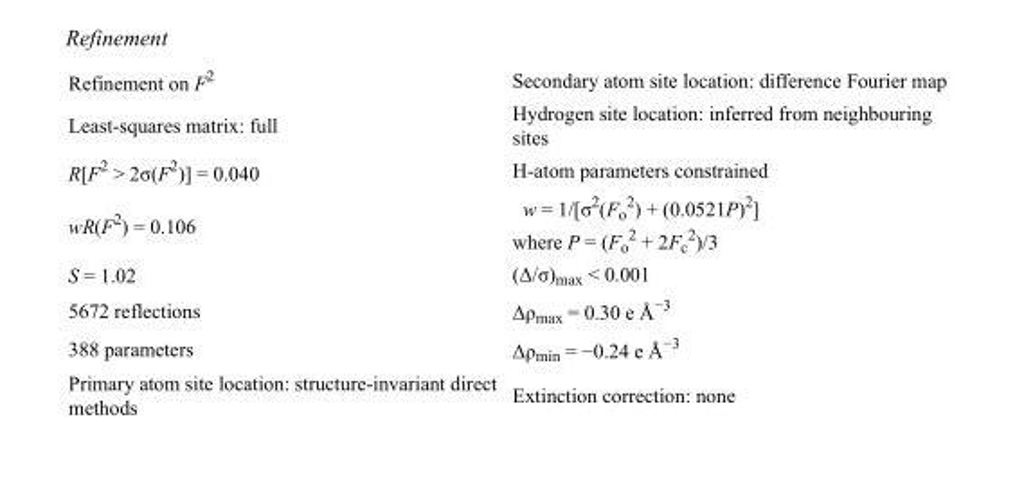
<table><tbody><tr><td>Refinement on F<sup>2</sup></td><td>Secondary atom site location: difference Fourier map</td></tr><tr><td>Least-squares matrix: full</td><td>Hydrogen site location: inferred from neighbouring sites</td></tr><tr><td>R[F<sup>2</sup> &gt; 2σ(F<sup>2</sup>)] = 0.040</td><td>H-atom parameters constrained</td></tr><tr><td>wR(F<sup>2</sup>) = 0.106</td><td>w = 1/[σ<sup>2</sup>(F<sub>o</sub> <sup>2</sup>) + (0.0521P)<sup>2</sup>] where P = (F<sub>o</sub> <sup>2</sup> + 2F<sub>c</sub> <sup>2</sup>)/3</td></tr><tr><td>S = 1.02</td><td>(Δ/σ)<sub>max</sub> &lt; 0.001</td></tr><tr><td>5672 reflections</td><td>Δρ<sub>max</sub> = 0.30 e Å<sup>−3</sup></td></tr><tr><td>388 parameters</td><td>Δρ<sub>min</sub> = −0.24 e Å<sup>−3</sup></td></tr><tr><td>Primary atom site location: structure-invariant direct methods</td><td>Extinction correction: none</td></tr></tbody></table>